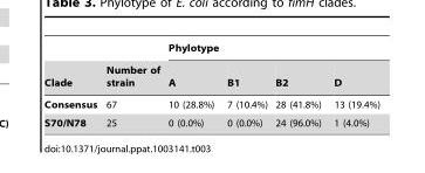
<table><thead><tr><td rowspan="2">Clade</td><td rowspan="2">Number of strain</td><td colspan="4">Phylotype</td></tr><tr><td>A</td><td>B1</td><td>B2</td><td>D</td></tr></thead><tbody><tr><td>Consensus</td><td>67</td><td>10 (28.8%)</td><td>7 (10.4%)</td><td>28 (41.8%)</td><td>13 (19.4%)</td></tr><tr><td>S70/N78</td><td>25</td><td>0 (0.0%)</td><td>0 (0.0%)</td><td>24 (96.0%)</td><td>1 (4.0%)</td></tr></tbody></table>